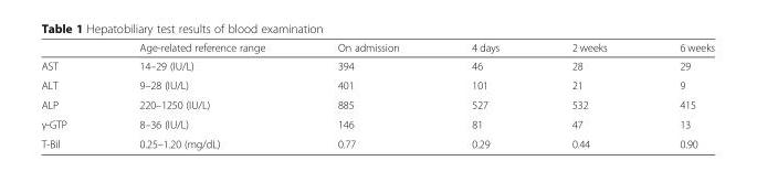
<table><thead><tr><td></td><td>Age-related reference range</td><td>On admission</td><td>4 days</td><td>2 weeks</td><td>6 weeks</td></tr></thead><tbody><tr><td>AST</td><td>14–29 (IU/L)</td><td>394</td><td>46</td><td>28</td><td>29</td></tr><tr><td>ALT</td><td>9–28 (IU/L)</td><td>401</td><td>101</td><td>21</td><td>9</td></tr><tr><td>ALP</td><td>220–1250 (IU/L)</td><td>885</td><td>527</td><td>532</td><td>415</td></tr><tr><td>γ-GTP</td><td>8–36 (IU/L)</td><td>146</td><td>81</td><td>47</td><td>13</td></tr><tr><td>T-Bil</td><td>0.25–1.20 (mg/dL)</td><td>0.77</td><td>0.29</td><td>0.44</td><td>0.90</td></tr></tbody></table>